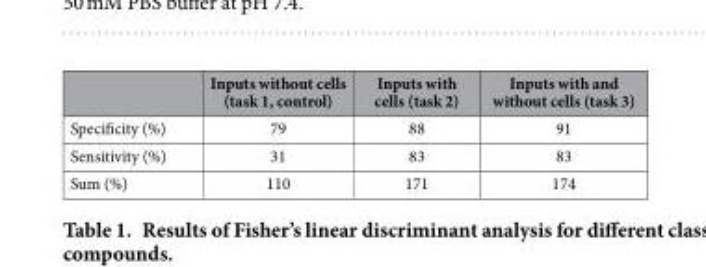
<table><thead><tr><td></td><td>Inputs without cells (task 1, control)</td><td>Inputs with cells (task 2)</td><td>Inputs with and without cells (task 3)</td></tr></thead><tbody><tr><td>Specificity (%)</td><td>79</td><td>88</td><td>91</td></tr><tr><td>Sensitivity (%)</td><td>31</td><td>83</td><td>83</td></tr><tr><td>Sum (%)</td><td>110</td><td>171</td><td>174</td></tr></tbody></table>